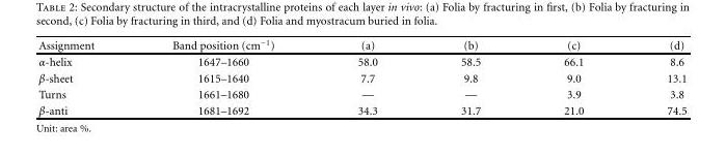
<table><thead><tr><td>Assignment</td><td>Band position (cm<sup>−1</sup>)</td><td>(a)</td><td>(b)</td><td>(c)</td><td>(d)</td></tr></thead><tbody><tr><td>α-helix</td><td>1647–1660</td><td>58.0</td><td>58.5</td><td>66.1</td><td>8.6</td></tr><tr><td>β-sheet</td><td>1615–1640</td><td>7.7</td><td>9.8</td><td>9.0</td><td>13.1</td></tr><tr><td>Turns</td><td>1661–1680</td><td>—</td><td>—</td><td>3.9</td><td>3.8</td></tr><tr><td>β-anti</td><td>1681–1692</td><td>34.3</td><td>31.7</td><td>21.0</td><td>74.5</td></tr></tbody></table>